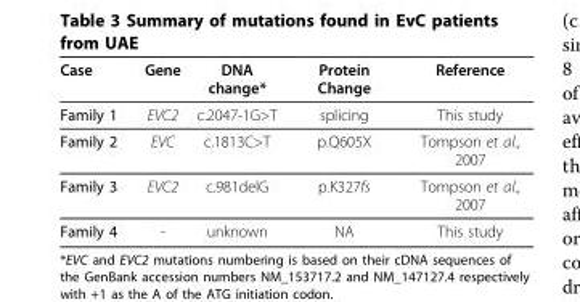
<table><thead><tr><td>Case</td><td>Gene</td><td>DNA change*</td><td>Protein Change</td><td>Reference</td></tr></thead><tbody><tr><td>Family 1</td><td>EVC2</td><td>c.2047-1G&gt;T</td><td>splicing</td><td>This study</td></tr><tr><td>Family 2</td><td>EVC</td><td>c.1813C&gt;T</td><td>p.Q605X</td><td>Tompson et al., 2007</td></tr><tr><td>Family 3</td><td>EVC2</td><td>c.981delG</td><td>p.K327fs</td><td>Tompson et al., 2007</td></tr><tr><td>Family 4</td><td>-</td><td>unknown</td><td>NA</td><td>This study</td></tr></tbody></table>